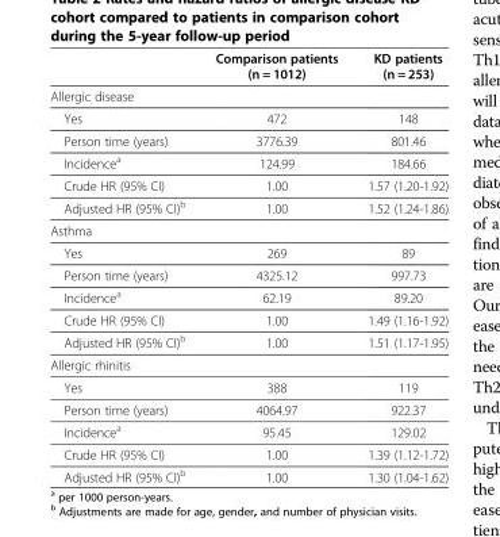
<table><thead><tr><td></td><td>Comparison patients (n = 1012)</td><td>KD patients (n = 253)</td></tr></thead><tbody><tr><td colspan="3">Allergic disease</td></tr><tr><td>Yes</td><td>472</td><td>148</td></tr><tr><td>Person time (years)</td><td>3776.39</td><td>801.46</td></tr><tr><td>Incidence<sup>a</sup></td><td>124.99</td><td>184.66</td></tr><tr><td>Crude HR (95% CI)</td><td>1.00</td><td>1.57 (1.20-1.92)</td></tr><tr><td>Adjusted HR (95% CI)<sup>b</sup></td><td>1.00</td><td>1.52 (1.24-1.86)</td></tr><tr><td colspan="3">Asthma</td></tr><tr><td>Yes</td><td>269</td><td>89</td></tr><tr><td>Person time (years)</td><td>4325.12</td><td>997.73</td></tr><tr><td>Incidence<sup>a</sup></td><td>62.19</td><td>89.20</td></tr><tr><td>Crude HR (95% CI)</td><td>1.00</td><td>1.49 (1.16-1.92)</td></tr><tr><td>Adjusted HR (95% CI)<sup>b</sup></td><td>1.00</td><td>1.51 (1.17-1.95)</td></tr><tr><td colspan="3">Allergic rhinitis</td></tr><tr><td>Yes</td><td>388</td><td>119</td></tr><tr><td>Person time (years)</td><td>4064.97</td><td>922.37</td></tr><tr><td>Incidence<sup>a</sup></td><td>95.45</td><td>129.02</td></tr><tr><td>Crude HR (95% CI)</td><td>1.00</td><td>1.39 (1.12-1.72)</td></tr><tr><td>Adjusted HR (95% CI)<sup>b</sup></td><td>1.00</td><td>1.30 (1.04-1.62)</td></tr></tbody></table>